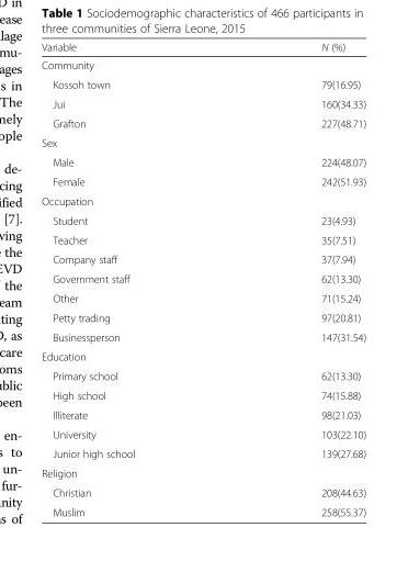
<table><thead><tr><td>Variable</td><td>N (%)</td></tr></thead><tbody><tr><td colspan="2">Community</td></tr><tr><td>Kossoh town</td><td>79(16.95)</td></tr><tr><td>Jui</td><td>160(34.33)</td></tr><tr><td>Grafton</td><td>227(48.71)</td></tr><tr><td colspan="2">Sex</td></tr><tr><td>Male</td><td>224(48.07)</td></tr><tr><td>Female</td><td>242(51.93)</td></tr><tr><td colspan="2">Occupation</td></tr><tr><td>Student</td><td>23(4.93)</td></tr><tr><td>Teacher</td><td>35(7.51)</td></tr><tr><td>Company staff</td><td>37(7.94)</td></tr><tr><td>Government staff</td><td>62(13.30)</td></tr><tr><td>Other</td><td>71(15.24)</td></tr><tr><td>Petty trading</td><td>97(20.81)</td></tr><tr><td>Businessperson</td><td>147(31.54)</td></tr><tr><td colspan="2">Education</td></tr><tr><td>Primary school</td><td>62(13.30)</td></tr><tr><td>High school</td><td>74(15.88)</td></tr><tr><td>Illiterate</td><td>98(21.03)</td></tr><tr><td>University</td><td>103(22.10)</td></tr><tr><td>Junior high school</td><td>139(27.68)</td></tr><tr><td colspan="2">Religion</td></tr><tr><td>Christian</td><td>208(44.63)</td></tr><tr><td>Muslim</td><td>258(55.37)</td></tr></tbody></table>